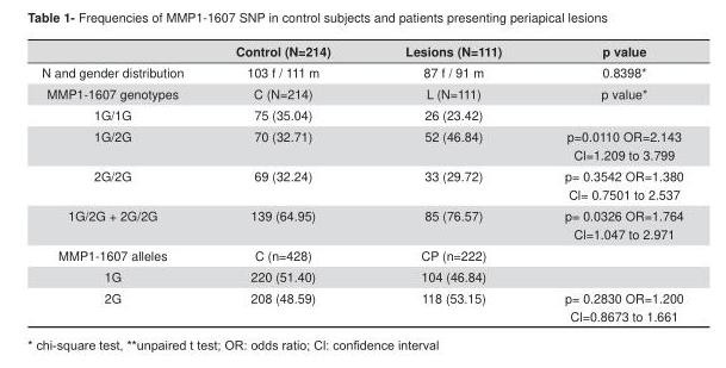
<table><thead><tr><td></td><td>Control (N=214)</td><td>Lesions (N=111)</td><td>p value</td></tr></thead><tbody><tr><td>N and gender distribution</td><td>103 f / 111 m</td><td>87 f / 91 m</td><td>0.8398*</td></tr><tr><td>MMP1-1607 genotypes</td><td>C (N=214)</td><td>L (N=111)</td><td>p value*</td></tr><tr><td>1G/1G</td><td>75 (35.04)</td><td>26 (23.42)</td><td></td></tr><tr><td>1G/2G</td><td>70 (32.71)</td><td>52 (46.84)</td><td>p=0.0110 OR=2.143 Cl=1.209 to 3.799</td></tr><tr><td>2G/2G</td><td>69 (32.24)</td><td>33 (29.72)</td><td>p= 0.3542 OR=1.380 Cl= 0.7501 to 2.537</td></tr><tr><td>1G/2G + 2G/2G</td><td>139 (64.95)</td><td>85 (76.57)</td><td>p= 0.0326 OR=1.764 Cl=1.047 to 2.971</td></tr><tr><td>MMP1-1607 alleles</td><td>C (n=428)</td><td>CP (n=222)</td><td></td></tr><tr><td>1G</td><td>220 (51.40)</td><td>104 (46.84)</td><td></td></tr><tr><td>2G</td><td>208 (48.59)</td><td>118 (53.15)</td><td>p= 0.2830 OR=1.200 Cl=0.8673 to 1.661</td></tr></tbody></table>